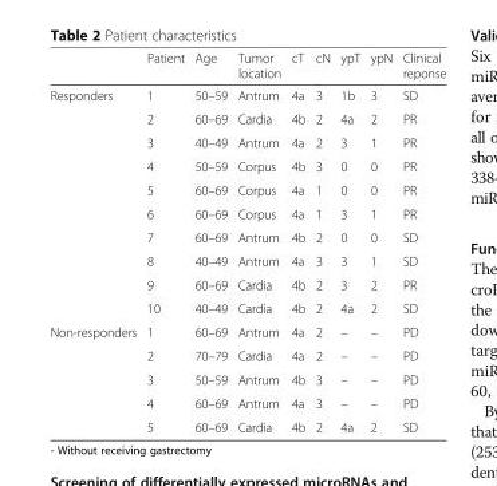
<table><thead><tr><td></td><td>Patient</td><td>Age</td><td>Tumor location</td><td>cT</td><td>cN</td><td>ypT</td><td>ypN</td><td>Clinical reponse</td></tr></thead><tbody><tr><td rowspan="10">Responders</td><td>1</td><td>50–59</td><td>Antrum</td><td>4a</td><td>3</td><td>1b</td><td>3</td><td>SD</td></tr><tr><td>2</td><td>60–69</td><td>Cardia</td><td>4b</td><td>2</td><td>4a</td><td>2</td><td>PR</td></tr><tr><td>3</td><td>40–49</td><td>Antrum</td><td>4a</td><td>2</td><td>3</td><td>1</td><td>PR</td></tr><tr><td>4</td><td>50–59</td><td>Corpus</td><td>4b</td><td>3</td><td>0</td><td>0</td><td>PR</td></tr><tr><td>5</td><td>60–69</td><td>Corpus</td><td>4a</td><td>1</td><td>0</td><td>0</td><td>PR</td></tr><tr><td>6</td><td>60–69</td><td>Corpus</td><td>4a</td><td>1</td><td>3</td><td>1</td><td>PR</td></tr><tr><td>7</td><td>60–69</td><td>Antrum</td><td>4b</td><td>2</td><td>0</td><td>0</td><td>SD</td></tr><tr><td>8</td><td>40–49</td><td>Antrum</td><td>4a</td><td>3</td><td>3</td><td>1</td><td>SD</td></tr><tr><td>9</td><td>60–69</td><td>Cardia</td><td>4b</td><td>2</td><td>3</td><td>2</td><td>PR</td></tr><tr><td>10</td><td>40–49</td><td>Cardia</td><td>4b</td><td>2</td><td>4a</td><td>2</td><td>SD</td></tr><tr><td rowspan="5">Non-responders</td><td>1</td><td>60–69</td><td>Antrum</td><td>4a</td><td>2</td><td>–</td><td>–</td><td>PD</td></tr><tr><td>2</td><td>70–79</td><td>Cardia</td><td>4a</td><td>2</td><td>–</td><td>–</td><td>PD</td></tr><tr><td>3</td><td>50–59</td><td>Antrum</td><td>4b</td><td>3</td><td>–</td><td>–</td><td>PD</td></tr><tr><td>4</td><td>60–69</td><td>Antrum</td><td>4a</td><td>3</td><td>–</td><td>–</td><td>PD</td></tr><tr><td>5</td><td>60–69</td><td>Cardia</td><td>4b</td><td>2</td><td>4a</td><td>2</td><td>SD</td></tr></tbody></table>